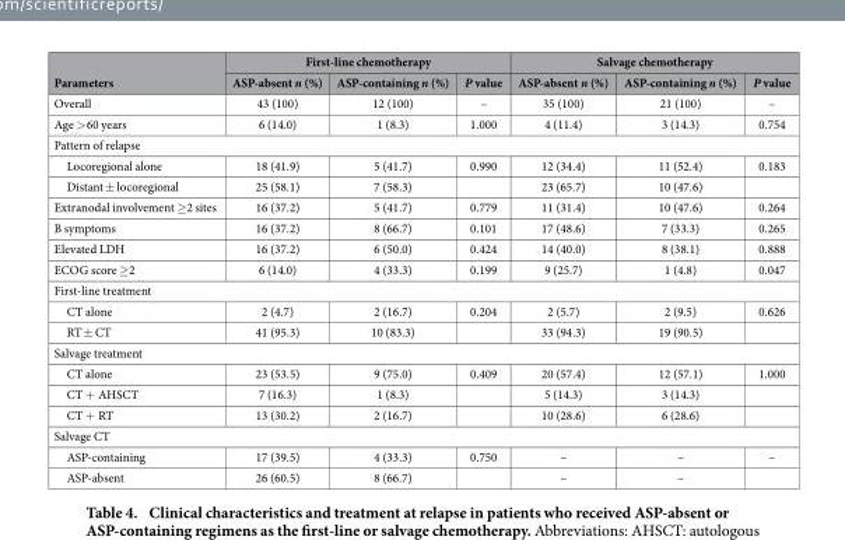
<table><thead><tr><td rowspan="2">Parameters</td><td colspan="3">First-line chemotherapy</td><td colspan="3">Salvage chemotherapy</td></tr><tr><td>ASP-absent n (%)</td><td>ASP-containing n (%)</td><td>P value</td><td>ASP-absent n (%)</td><td>ASP-containing n (%)</td><td>P value</td></tr></thead><tbody><tr><td>Overall</td><td>43 (100)</td><td>12 (100)</td><td>–</td><td>35 (100)</td><td>21 (100)</td><td>–</td></tr><tr><td>Age &gt; 60 years</td><td>6 (14.0)</td><td>1 (8.3)</td><td>1.000</td><td>4 (11.4)</td><td>3 (14.3)</td><td>0.754</td></tr><tr><td colspan="7">Pattern of relapse</td></tr><tr><td>Locoregional alone</td><td>18 (41.9)</td><td>5 (41.7)</td><td>0.990</td><td>12 (34.4)</td><td>11 (52.4)</td><td>0.183</td></tr><tr><td>Distant ± locoregional</td><td>25 (58.1)</td><td>7 (58.3)</td><td></td><td>23 (65.7)</td><td>10 (47.6)</td><td></td></tr><tr><td>Extranodal involvement ≥2 sites</td><td>16 (37.2)</td><td>5 (41.7)</td><td>0.779</td><td>11 (31.4)</td><td>10 (47.6)</td><td>0.264</td></tr><tr><td>B symptoms</td><td>16 (37.2)</td><td>8 (66.7)</td><td>0.101</td><td>17 (48.6)</td><td>7 (33.3)</td><td>0.265</td></tr><tr><td>Elevated LDH</td><td>16 (37.2)</td><td>6 (50.0)</td><td>0.424</td><td>14 (40.0)</td><td>8 (38.1)</td><td>0.888</td></tr><tr><td>ECOG score ≥2</td><td>6 (14.0)</td><td>4 (33.3)</td><td>0.199</td><td>9 (25.7)</td><td>1 (4.8)</td><td>0.047</td></tr><tr><td colspan="7">First-line treatment</td></tr><tr><td>CT alone</td><td>2 (4.7)</td><td>2 (16.7)</td><td>0.204</td><td>2 (5.7)</td><td>2 (9.5)</td><td>0.626</td></tr><tr><td>RT ± CT</td><td>41 (95.3)</td><td>10 (83.3)</td><td></td><td>33 (94.3)</td><td>19 (90.5)</td><td></td></tr><tr><td colspan="7">Salvage treatment</td></tr><tr><td>CT alone</td><td>23 (53.5)</td><td>9 (75.0)</td><td>0.409</td><td>20 (57.4)</td><td>12 (57.1)</td><td>1.000</td></tr><tr><td>CT + AHSCT</td><td>7 (16.3)</td><td>1 (8.3)</td><td></td><td>5 (14.3)</td><td>3 (14.3)</td><td></td></tr><tr><td>CT + RT</td><td>13 (30.2)</td><td>2 (16.7)</td><td></td><td>10 (28.6)</td><td>6 (28.6)</td><td></td></tr><tr><td colspan="7">Salvage CT</td></tr><tr><td>ASP-containing</td><td>17 (39.5)</td><td>4 (33.3)</td><td>0.750</td><td>–</td><td>–</td><td>–</td></tr><tr><td>ASP-absent</td><td>26 (60.5)</td><td>8 (66.7)</td><td></td><td>–</td><td>–</td><td></td></tr></tbody></table>